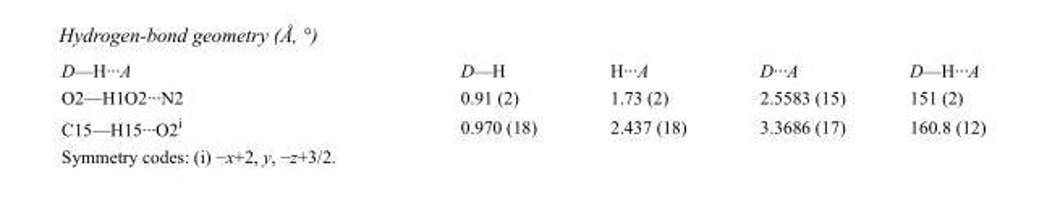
<table><tbody><tr><td>D—H···A</td><td>D—H</td><td>H···A</td><td>D···A</td><td>D—H···A</td></tr><tr><td>O2—H1O2···N2</td><td>0.91 (2)</td><td>1.73 (2)</td><td>2.5583 (15)</td><td>151 (2)</td></tr><tr><td>C15—H15···O2<sup>i</sup></td><td>0.970 (18)</td><td>2.437 (18)</td><td>3.3686 (17)</td><td>160.8 (12)</td></tr></tbody></table>